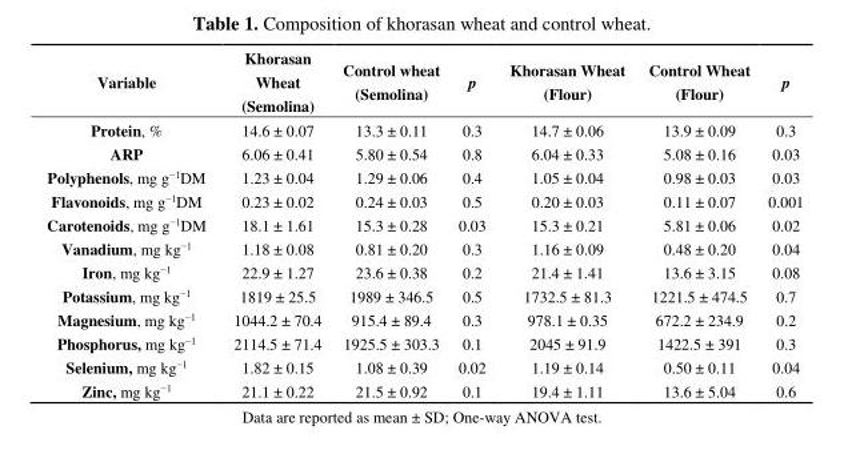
<table><thead><tr><td>Variable</td><td>Khorasan Wheat (Semolina)</td><td>Control wheat (Semolina)</td><td>p</td><td>Khorasan Wheat (Flour)</td><td>Control Wheat (Flour)</td><td>p</td></tr></thead><tbody><tr><td>Protein, %</td><td>14.6 ± 0.07</td><td>13.3 ± 0.11</td><td>0.3</td><td>14.7 ± 0.06</td><td>13.9 ± 0.09</td><td>0.3</td></tr><tr><td>ARP</td><td>6.06 ± 0.41</td><td>5.80 ± 0.54</td><td>0.8</td><td>6.04 ± 0.33</td><td>5.08 ± 0.16</td><td>0.03</td></tr><tr><td>Polyphenols, mg g<sup>−1</sup>DM</td><td>1.23 ± 0.04</td><td>1.29 ± 0.06</td><td>0.4</td><td>1.05 ± 0.04</td><td>0.98 ± 0.03</td><td>0.03</td></tr><tr><td>Flavonoids, mg g<sup>−1</sup>DM</td><td>0.23 ± 0.02</td><td>0.24 ± 0.03</td><td>0.5</td><td>0.20 ± 0.03</td><td>0.11 ± 0.07</td><td>0.001</td></tr><tr><td>Carotenoids, mg g<sup>−1</sup>DM</td><td>18.1 ± 1.61</td><td>15.3 ± 0.28</td><td>0.03</td><td>15.3 ± 0.21</td><td>5.81 ± 0.06</td><td>0.02</td></tr><tr><td>Vanadium, mg kg<sup>−1</sup></td><td>1.18 ± 0.08</td><td>0.81 ± 0.20</td><td>0.3</td><td>1.16 ± 0.09</td><td>0.48 ± 0.20</td><td>0.04</td></tr><tr><td>Iron, mg kg<sup>−1</sup></td><td>22.9 ± 1.27</td><td>23.6 ± 0.38</td><td>0.2</td><td>21.4 ± 1.41</td><td>13.6 ± 3.15</td><td>0.08</td></tr><tr><td>Potassium, mg kg<sup>−1</sup></td><td>1819 ± 25.5</td><td>1989 ± 346.5</td><td>0.5</td><td>1732.5 ± 81.3</td><td>1221.5 ± 474.5</td><td>0.7</td></tr><tr><td>Magnesium, mg kg<sup>−1</sup></td><td>1044.2 ± 70.4</td><td>915.4 ± 89.4</td><td>0.3</td><td>978.1 ± 0.35</td><td>672.2 ± 234.9</td><td>0.2</td></tr><tr><td>Phosphorus, mg kg<sup>−1</sup></td><td>2114.5 ± 71.4</td><td>1925.5 ± 303.3</td><td>0.1</td><td>2045 ± 91.9</td><td>1422.5 ± 391</td><td>0.3</td></tr><tr><td>Selenium, mg kg<sup>−1</sup></td><td>1.82 ± 0.15</td><td>1.08 ± 0.39</td><td>0.02</td><td>1.19 ± 0.14</td><td>0.50 ± 0.11</td><td>0.04</td></tr><tr><td>Zinc, mg kg<sup>−1</sup></td><td>21.1 ± 0.22</td><td>21.5 ± 0.92</td><td>0.1</td><td>19.4 ± 1.11</td><td>13.6 ± 5.04</td><td>0.6</td></tr></tbody></table>